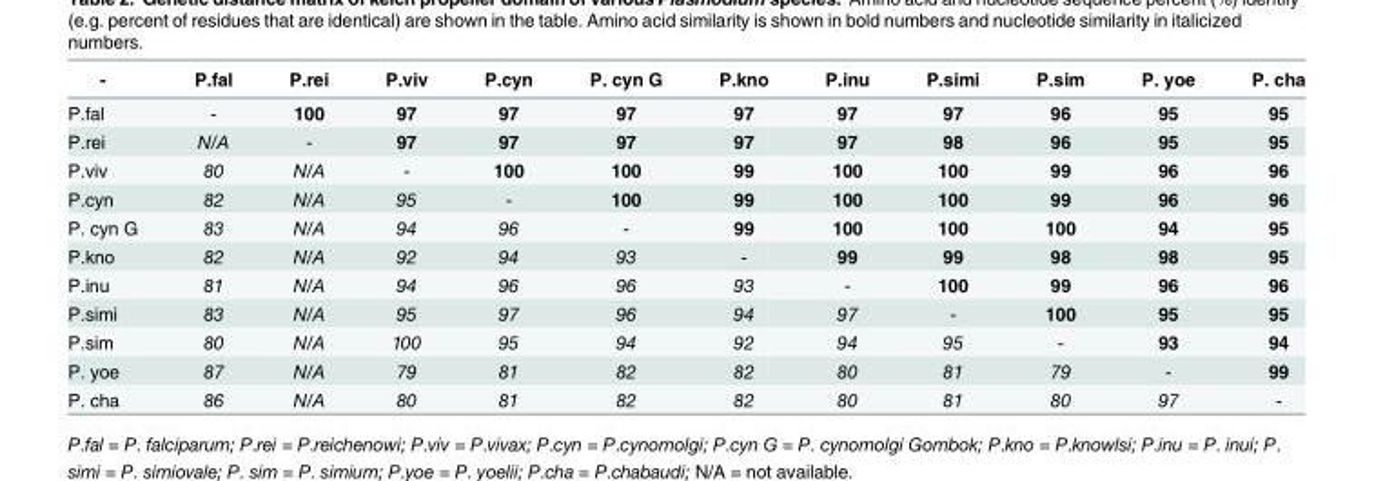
<table><thead><tr><td>-</td><td>P.fal</td><td>P.rei</td><td>P.viv</td><td>P.cyn</td><td>P. cyn G</td><td>P.kno</td><td>P.inu</td><td>P.simi</td><td>P.sim</td><td>P. yoe</td><td>P. cha</td></tr></thead><tbody><tr><td>P.fal</td><td>-</td><td>100</td><td>97</td><td>97</td><td>97</td><td>97</td><td>97</td><td>97</td><td>96</td><td>95</td><td>95</td></tr><tr><td>P.rei</td><td>N/A</td><td>-</td><td>97</td><td>97</td><td>97</td><td>97</td><td>97</td><td>98</td><td>96</td><td>95</td><td>95</td></tr><tr><td>P.viv</td><td>80</td><td>N/A</td><td>-</td><td>100</td><td>100</td><td>99</td><td>100</td><td>100</td><td>99</td><td>96</td><td>96</td></tr><tr><td>P.cyn</td><td>82</td><td>N/A</td><td>95</td><td>-</td><td>100</td><td>99</td><td>100</td><td>100</td><td>99</td><td>96</td><td>96</td></tr><tr><td>P. cyn G</td><td>83</td><td>N/A</td><td>94</td><td>96</td><td>-</td><td>99</td><td>100</td><td>100</td><td>100</td><td>94</td><td>95</td></tr><tr><td>P.kno</td><td>82</td><td>N/A</td><td>92</td><td>94</td><td>93</td><td>-</td><td>99</td><td>99</td><td>98</td><td>98</td><td>95</td></tr><tr><td>P.inu</td><td>81</td><td>N/A</td><td>94</td><td>96</td><td>96</td><td>93</td><td>-</td><td>100</td><td>99</td><td>96</td><td>96</td></tr><tr><td>P.simi</td><td>83</td><td>N/A</td><td>95</td><td>97</td><td>96</td><td>94</td><td>97</td><td>-</td><td>100</td><td>95</td><td>95</td></tr><tr><td>P.sim</td><td>80</td><td>N/A</td><td>100</td><td>95</td><td>94</td><td>92</td><td>94</td><td>95</td><td>-</td><td>93</td><td>94</td></tr><tr><td>P. yoe</td><td>87</td><td>N/A</td><td>79</td><td>81</td><td>82</td><td>82</td><td>80</td><td>81</td><td>79</td><td>-</td><td>99</td></tr><tr><td>P. cha</td><td>86</td><td>N/A</td><td>80</td><td>81</td><td>82</td><td>82</td><td>80</td><td>81</td><td>80</td><td>97</td><td>-</td></tr></tbody></table>